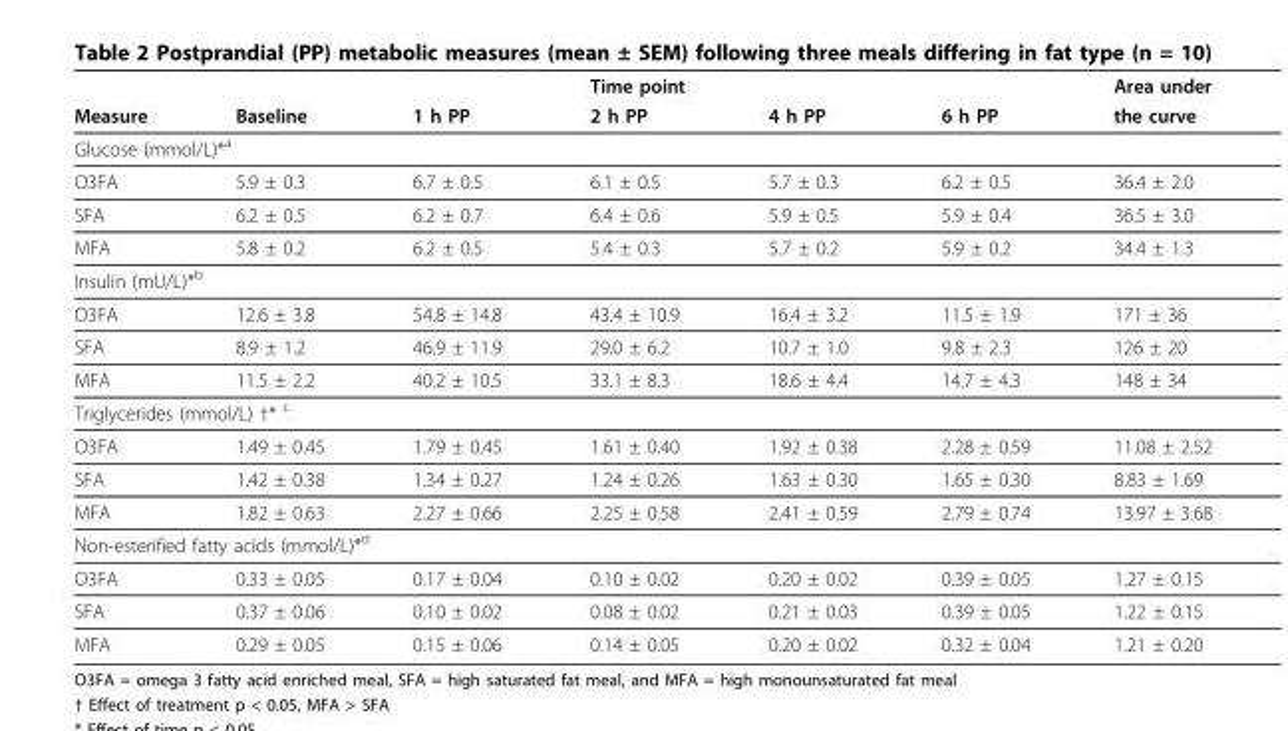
<table><thead><tr><td rowspan="2">Measure</td><td rowspan="2">Baseline</td><td rowspan="2">1 h PP</td><td rowspan="2">Time point 2 h PP</td><td rowspan="2">4 h PP</td><td rowspan="2">6 h PP</td><td rowspan="2">Area under the curve</td></tr><tr></tr></thead><tbody><tr><td colspan="7">Glucose (mmol/L)*a</td></tr><tr><td>O3FA</td><td>5.9 ± 0.3</td><td>6.7 ± 0.5</td><td>6.1 ± 0.5</td><td>5.7 ± 0.3</td><td>6.2 ± 0.5</td><td>36.4 ± 2.0</td></tr><tr><td>SFA</td><td>6.2 ± 0.5</td><td>6.2 ± 0.7</td><td>6.4 ± 0.6</td><td>5.9 ± 0.5</td><td>5.9 ± 0.4</td><td>36.5 ± 3.0</td></tr><tr><td>MFA</td><td>5.8 ± 0.2</td><td>6.2 ± 0.5</td><td>5.4 ± 0.3</td><td>5.7 ± 0.2</td><td>5.9 ± 0.2</td><td>34.4 ± 1.3</td></tr><tr><td colspan="7">Insulin (mU/L)*<sup>b</sup></td></tr><tr><td>O3FA</td><td>12.6 ± 3.8</td><td>54.8 ± 14.8</td><td>43.4 ± 10.9</td><td>16.4 ± 3.2</td><td>11.5 ± 1.9</td><td>171 ± 36</td></tr><tr><td>SFA</td><td>8.9 ± 1.2</td><td>46.9 ± 11.9</td><td>29.0 ± 6.2</td><td>10.7 ± 1.0</td><td>9.8 ± 2.3</td><td>126 ± 20</td></tr><tr><td>MFA</td><td>11.5 ± 2.2</td><td>40.2 ± 10.5</td><td>33.1 ± 8.3</td><td>18.6 ± 4.4</td><td>14.7 ± 4.3</td><td>148 ± 34</td></tr><tr><td colspan="7">Triglycerides (mmol/L) †* <sup>c</sup></td></tr><tr><td>O3FA</td><td>1.49 ± 0.45</td><td>1.79 ± 0.45</td><td>1.61 ± 0.40</td><td>1.92 ± 0.38</td><td>2.28 ± 0.59</td><td>11.08 ± 2.52</td></tr><tr><td>SFA</td><td>1.42 ± 0.38</td><td>1.34 ± 0.27</td><td>1.24 ± 0.26</td><td>1.63 ± 0.30</td><td>1.65 ± 0.30</td><td>8.83 ± 1.69</td></tr><tr><td>MFA</td><td>1.82 ± 0.63</td><td>2.27 ± 0.66</td><td>2.25 ± 0.58</td><td>2.41 ± 0.59</td><td>2.79 ± 0.74</td><td>13.97 ± 3.68</td></tr><tr><td colspan="7">Non-esterified fatty acids (mmol/L)*<sup>d</sup></td></tr><tr><td>O3FA</td><td>0.33 ± 0.05</td><td>0.17 ± 0.04</td><td>0.10 ± 0.02</td><td>0.20 ± 0.02</td><td>0.39 ± 0.05</td><td>1.27 ± 0.15</td></tr><tr><td>SFA</td><td>0.37 ± 0.06</td><td>0.10 ± 0.02</td><td>0.08 ± 0.02</td><td>0.21 ± 0.03</td><td>0.39 ± 0.05</td><td>1.22 ± 0.15</td></tr><tr><td>MFA</td><td>0.29 ± 0.05</td><td>0.15 ± 0.06</td><td>0.14 ± 0.05</td><td>0.20 ± 0.02</td><td>0.32 ± 0.04</td><td>1.21 ± 0.20</td></tr></tbody></table>